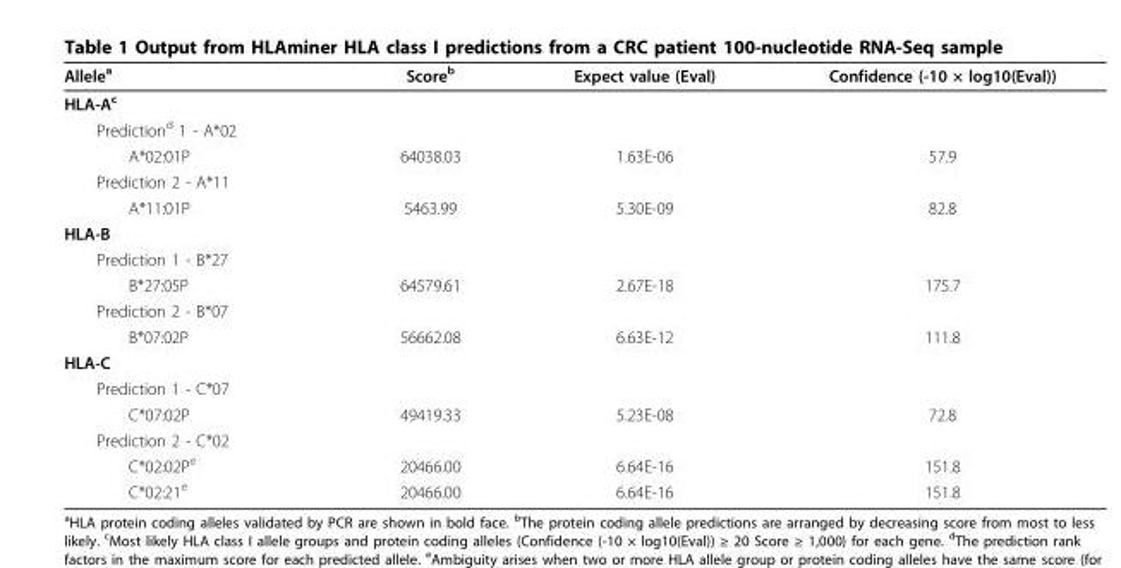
<table><thead><tr><td>Allele<sup>a</sup></td><td>Score<sup>b</sup></td><td>Expect value (Eval)</td><td>Confidence (-10 × log10(Eval))</td></tr></thead><tbody><tr><td colspan="4">HLA-A<sup>c</sup></td></tr><tr><td colspan="4">Prediction<sup>d</sup> 1 - A*02</td></tr><tr><td>A*02:01P</td><td>64038.03</td><td>1.63E-06</td><td>57.9</td></tr><tr><td colspan="4">Prediction 2 - A*11</td></tr><tr><td>A*11:01P</td><td>5463.99</td><td>5.30E-09</td><td>82.8</td></tr><tr><td colspan="4">HLA-B</td></tr><tr><td colspan="4">Prediction 1 - B*27</td></tr><tr><td>B*27:05P</td><td>64579.61</td><td>2.67E-18</td><td>175.7</td></tr><tr><td colspan="4">Prediction 2 - B*07</td></tr><tr><td>B*07:02P</td><td>56662.08</td><td>6.63E-12</td><td>111.8</td></tr><tr><td colspan="4">HLA-C</td></tr><tr><td colspan="4">Prediction 1 - C*07</td></tr><tr><td>C*07:02P</td><td>49419.33</td><td>5.23E-08</td><td>72.8</td></tr><tr><td colspan="4">Prediction 2 - C*02</td></tr><tr><td>C*02:02P<sup>e</sup></td><td>20466.00</td><td>6.64E-16</td><td>151.8</td></tr><tr><td>C*02:21<sup>e</sup></td><td>20466.00</td><td>6.64E-16</td><td>151.8</td></tr></tbody></table>